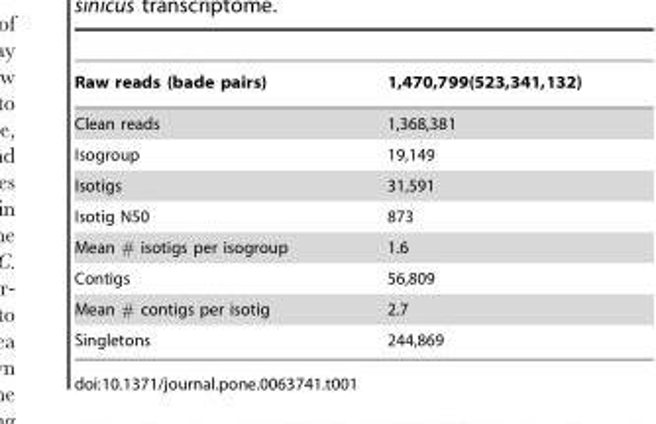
<table><thead><tr><td>Raw reads (bade pairs)</td><td>1,470,799(523,341,132)</td></tr></thead><tbody><tr><td>Clean reads</td><td>1,368,381</td></tr><tr><td>Isogroup</td><td>19,149</td></tr><tr><td>Isotigs</td><td>31,591</td></tr><tr><td>Isotig N50</td><td>873</td></tr><tr><td>Mean # isotigs per isogroup</td><td>1.6</td></tr><tr><td>Contigs</td><td>56,809</td></tr><tr><td>Mean # contigs per isotig</td><td>2.7</td></tr><tr><td>Singletons</td><td>244,869</td></tr></tbody></table>